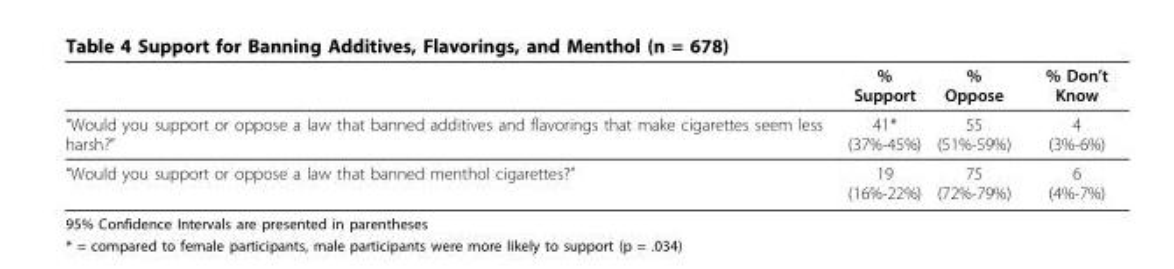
<table><thead><tr><td></td><td>% Support</td><td>% Oppose</td><td>% Don’t Know</td></tr></thead><tbody><tr><td>“Would you support or oppose a law that banned additives and flavorings that make cigarettes seem less harsh?”</td><td>41* (37%-45%)</td><td>55 (51%-59%)</td><td>4 (3%-6%)</td></tr><tr><td>“Would you support or oppose a law that banned menthol cigarettes?”</td><td>19 (16%-22%)</td><td>75 (72%-79%)</td><td>6 (4%-7%)</td></tr></tbody></table>